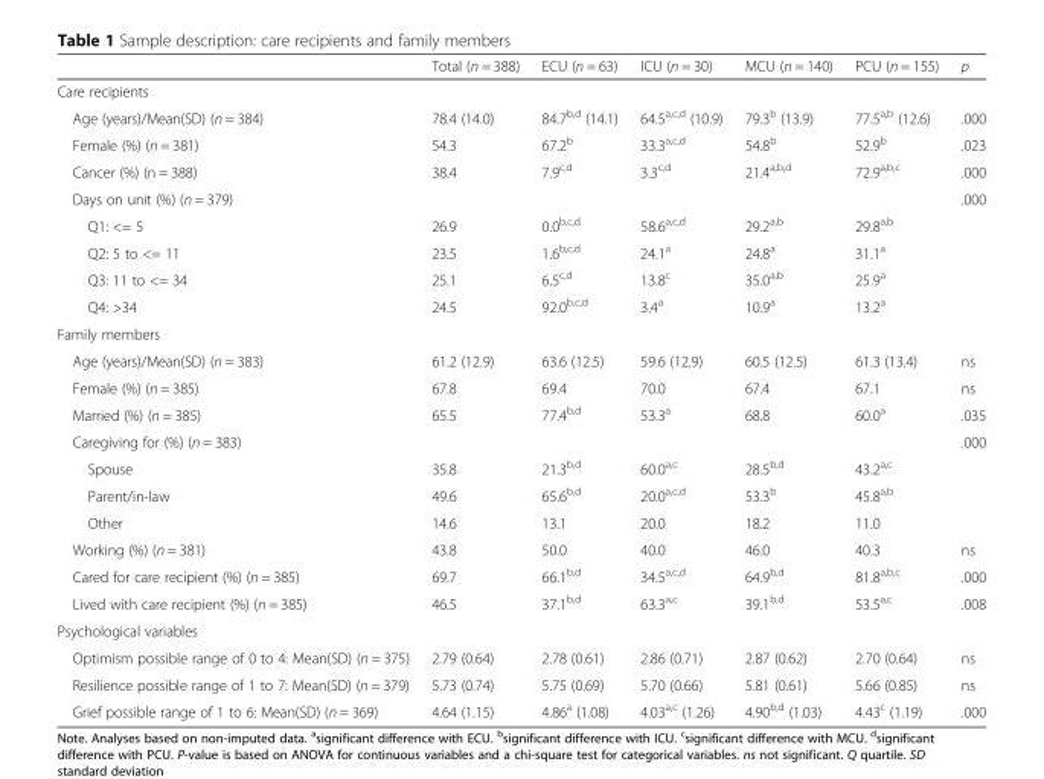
<table><thead><tr><td></td><td>Total (n = 388)</td><td>ECU (n = 63)</td><td>ICU (n = 30)</td><td>MCU (n = 140)</td><td>PCU (n = 155)</td><td>p</td></tr></thead><tbody><tr><td colspan="7">Care recipients</td></tr><tr><td>Age (years)/Mean(SD) (n = 384)</td><td>78.4 (14.0)</td><td>84.7<sup>b,d</sup> (14.1)</td><td>64.5<sup>a,c,d</sup> (10.9)</td><td>79.3<sup>b</sup> (13.9)</td><td>77.5<sup>a,b</sup> (12.6)</td><td>.000</td></tr><tr><td>Female (%) (n = 381)</td><td>54.3</td><td>67.2<sup>b</sup></td><td>33.3<sup>a,c,d</sup></td><td>54.8<sup>b</sup></td><td>52.9<sup>b</sup></td><td>.023</td></tr><tr><td>Cancer (%) (n = 388)</td><td>38.4</td><td>7.9<sup>c,d</sup></td><td>3.3<sup>c,d</sup></td><td>21.4<sup>a,b,d</sup></td><td>72.9<sup>a,b,c</sup></td><td>.000</td></tr><tr><td>Days on unit (%) (n = 379)</td><td></td><td></td><td></td><td></td><td></td><td>.000</td></tr><tr><td>Q1: &lt;= 5</td><td>26.9</td><td>0.0<sup>b,c,d</sup></td><td>58.6<sup>a,c,d</sup></td><td>29.2<sup>a,b</sup></td><td>29.8<sup>a,b</sup></td><td></td></tr><tr><td>Q2: 5 to &lt;= 11</td><td>23.5</td><td>1.6<sup>b,c,d</sup></td><td>24.1<sup>a</sup></td><td>24.8<sup>a</sup></td><td>31.1<sup>a</sup></td><td></td></tr><tr><td>Q3: 11 to &lt;= 34</td><td>25.1</td><td>6.5<sup>c,d</sup></td><td>13.8<sup>c</sup></td><td>35.0<sup>a,b</sup></td><td>25.9<sup>a</sup></td><td></td></tr><tr><td>Q4: &gt;34</td><td>24.5</td><td>92.0<sup>b,c,d</sup></td><td>3.4<sup>a</sup></td><td>10.9<sup>a</sup></td><td>13.2<sup>a</sup></td><td></td></tr><tr><td colspan="7">Family members</td></tr><tr><td>Age (years)/Mean(SD) (n = 383)</td><td>61.2 (12.9)</td><td>63.6 (12.5)</td><td>59.6 (12.9)</td><td>60.5 (12.5)</td><td>61.3 (13.4)</td><td>ns</td></tr><tr><td>Female (%) (n = 385)</td><td>67.8</td><td>69.4</td><td>70.0</td><td>67.4</td><td>67.1</td><td>ns</td></tr><tr><td>Married (%) (n = 385)</td><td>65.5</td><td>77.4<sup>b,d</sup></td><td>53.3<sup>a</sup></td><td>68.8</td><td>60.0<sup>a</sup></td><td>.035</td></tr><tr><td>Caregiving for (%) (n = 383)</td><td></td><td></td><td></td><td></td><td></td><td>.000</td></tr><tr><td>Spouse</td><td>35.8</td><td>21.3<sup>b,d</sup></td><td>60.0<sup>a,c</sup></td><td>28.5<sup>b,d</sup></td><td>43.2<sup>a,c</sup></td><td></td></tr><tr><td>Parent/in-law</td><td>49.6</td><td>65.6<sup>b,d</sup></td><td>20.0<sup>a,c,d</sup></td><td>53.3<sup>b</sup></td><td>45.8<sup>a,b</sup></td><td></td></tr><tr><td>Other</td><td>14.6</td><td>13.1</td><td>20.0</td><td>18.2</td><td>11.0</td><td></td></tr><tr><td>Working (%) (n = 381)</td><td>43.8</td><td>50.0</td><td>40.0</td><td>46.0</td><td>40.3</td><td>ns</td></tr><tr><td>Cared for care recipient (%) (n = 385)</td><td>69.7</td><td>66.1<sup>b,d</sup></td><td>34.5<sup>a,c,d</sup></td><td>64.9<sup>b,d</sup></td><td>81.8<sup>a,b,c</sup></td><td>.000</td></tr><tr><td>Lived with care recipient (%) (n = 385)</td><td>46.5</td><td>37.1<sup>b,d</sup></td><td>63.3<sup>a,c</sup></td><td>39.1<sup>b,d</sup></td><td>53.5<sup>a,c</sup></td><td>.008</td></tr><tr><td colspan="7">Psychological variables</td></tr><tr><td>Optimism possible range of 0 to 4: Mean(SD) (n = 375)</td><td>2.79 (0.64)</td><td>2.78 (0.61)</td><td>2.86 (0.71)</td><td>2.87 (0.62)</td><td>2.70 (0.64)</td><td>ns</td></tr><tr><td>Resilience possible range of 1 to 7: Mean(SD) (n = 379)</td><td>5.73 (0.74)</td><td>5.75 (0.69)</td><td>5.70 (0.66)</td><td>5.81 (0.61)</td><td>5.66 (0.85)</td><td>ns</td></tr><tr><td>Grief possible range of 1 to 6: Mean(SD) (n = 369)</td><td>4.64 (1.15)</td><td>4.86<sup>a</sup> (1.08)</td><td>4.03<sup>a,c</sup> (1.26)</td><td>4.90<sup>b,d</sup> (1.03)</td><td>4.43<sup>c</sup> (1.19)</td><td>.000</td></tr></tbody></table>